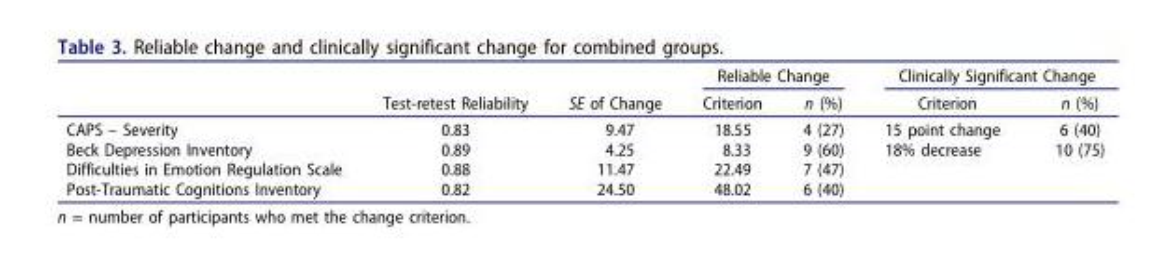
<table><thead><tr><td rowspan="2"></td><td rowspan="2">Test-retest Reliability</td><td rowspan="2">SE of Change</td><td colspan="2">Reliable Change</td><td colspan="2">Clinically Significant Change</td></tr><tr><td>Criterion</td><td>n (%)</td><td>Criterion</td><td>n (%)</td></tr></thead><tbody><tr><td>CAPS – Severity</td><td>0.83</td><td>9.47</td><td>18.55</td><td>4 (27)</td><td>15 point change</td><td>6 (40)</td></tr><tr><td>Beck Depression Inventory</td><td>0.89</td><td>4.25</td><td>8.33</td><td>9 (60)</td><td>18% decrease</td><td>10 (75)</td></tr><tr><td>Difficulties in Emotion Regulation Scale</td><td>0.88</td><td>11.47</td><td>22.49</td><td>7 (47)</td><td></td><td></td></tr><tr><td>Post-Traumatic Cognitions Inventory</td><td>0.82</td><td>24.50</td><td>48.02</td><td>6 (40)</td><td></td><td></td></tr></tbody></table>